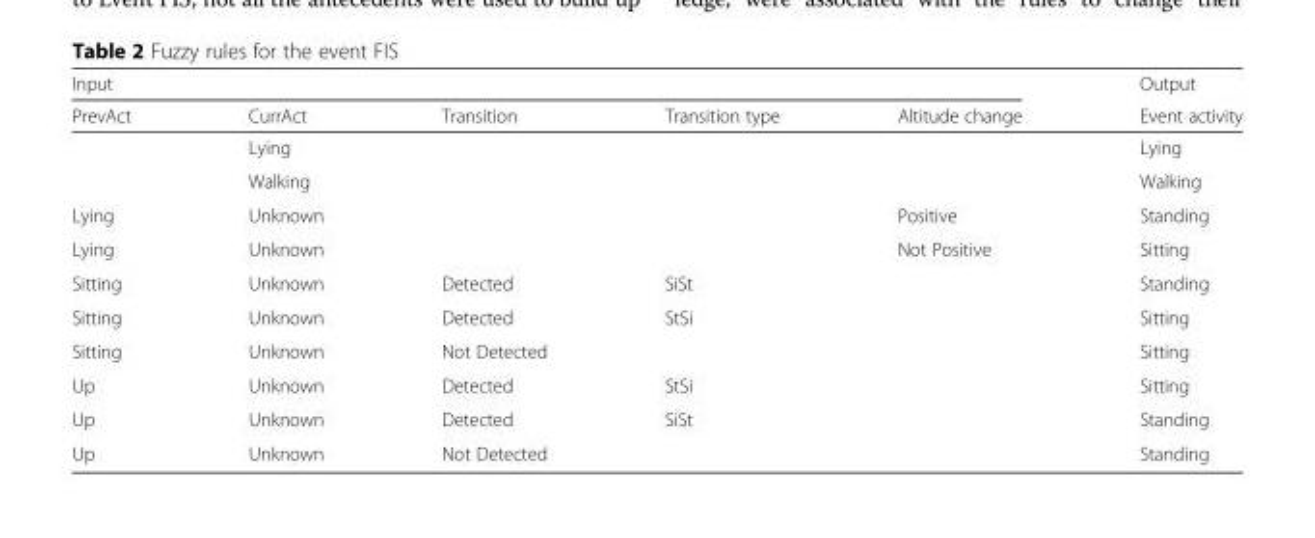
<table><thead><tr><td colspan="5">Input</td><td rowspan="2">Output Event activity</td></tr><tr><td>PrevAct</td><td>CurrAct</td><td>Transition</td><td>Transition type</td><td>Altitude change</td></tr></thead><tbody><tr><td></td><td>Lying</td><td></td><td></td><td></td><td>Lying</td></tr><tr><td></td><td>Walking</td><td></td><td></td><td></td><td>Walking</td></tr><tr><td>Lying</td><td>Unknown</td><td></td><td></td><td>Positive</td><td>Standing</td></tr><tr><td>Lying</td><td>Unknown</td><td></td><td></td><td>Not Positive</td><td>Sitting</td></tr><tr><td>Sitting</td><td>Unknown</td><td>Detected</td><td>SiSt</td><td></td><td>Standing</td></tr><tr><td>Sitting</td><td>Unknown</td><td>Detected</td><td>StSi</td><td></td><td>Sitting</td></tr><tr><td>Sitting</td><td>Unknown</td><td>Not Detected</td><td></td><td></td><td>Sitting</td></tr><tr><td>Up</td><td>Unknown</td><td>Detected</td><td>StSi</td><td></td><td>Sitting</td></tr><tr><td>Up</td><td>Unknown</td><td>Detected</td><td>SiSt</td><td></td><td>Standing</td></tr><tr><td>Up</td><td>Unknown</td><td>Not Detected</td><td></td><td></td><td>Standing</td></tr></tbody></table>